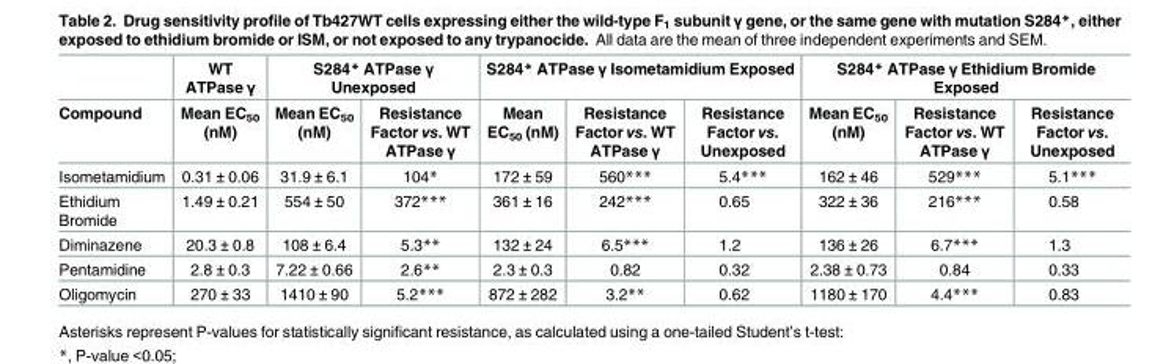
<table><thead><tr><td rowspan="2">Compound</td><td rowspan="2">WT ATPase γ Mean EC<sub>50</sub> (nM)</td><td colspan="2">S284* ATPase γ Unexposed</td><td colspan="3">S284* ATPase γ Isometamidium Exposed</td><td colspan="3">S284* ATPase γ Ethidium Bromide Exposed</td></tr><tr><td>Mean EC<sub>50</sub> (nM)</td><td>Resistance Factor vs. WT ATPase γ</td><td>Mean EC<sub>50</sub> (nM)</td><td>Resistance Factor vs. WT ATPase γ</td><td>Resistance Factor vs. Unexposed</td><td>Mean EC<sub>50</sub> (nM)</td><td>Resistance Factor vs. WT ATPase γ</td><td>Resistance Factor vs. Unexposed</td></tr></thead><tbody><tr><td>Isometamidium</td><td>0.31 ± 0.06</td><td>31.9 ± 6.1</td><td>104*</td><td>172 ± 59</td><td>560***</td><td>5.4***</td><td>162 ± 46</td><td>529***</td><td>5.1***</td></tr><tr><td>Ethidium Bromide</td><td>1.49 ± 0.21</td><td>554 ± 50</td><td>372***</td><td>361 ± 16</td><td>242***</td><td>0.65</td><td>322 ± 36</td><td>216***</td><td>0.58</td></tr><tr><td>Diminazene</td><td>20.3 ± 0.8</td><td>108 ± 6.4</td><td>5.3**</td><td>132 ± 24</td><td>6.5***</td><td>1.2</td><td>136 ± 26</td><td>6.7***</td><td>1.3</td></tr><tr><td>Pentamidine</td><td>2.8 ± 0.3</td><td>7.22 ± 0.66</td><td>2.6**</td><td>2.3 ± 0.3</td><td>0.82</td><td>0.32</td><td>2.38 ± 0.73</td><td>0.84</td><td>0.33</td></tr><tr><td>Oligomycin</td><td>270 ± 33</td><td>1410 ± 90</td><td>5.2***</td><td>872 ± 282</td><td>3.2**</td><td>0.62</td><td>1180 ± 170</td><td>4.4***</td><td>0.83</td></tr></tbody></table>